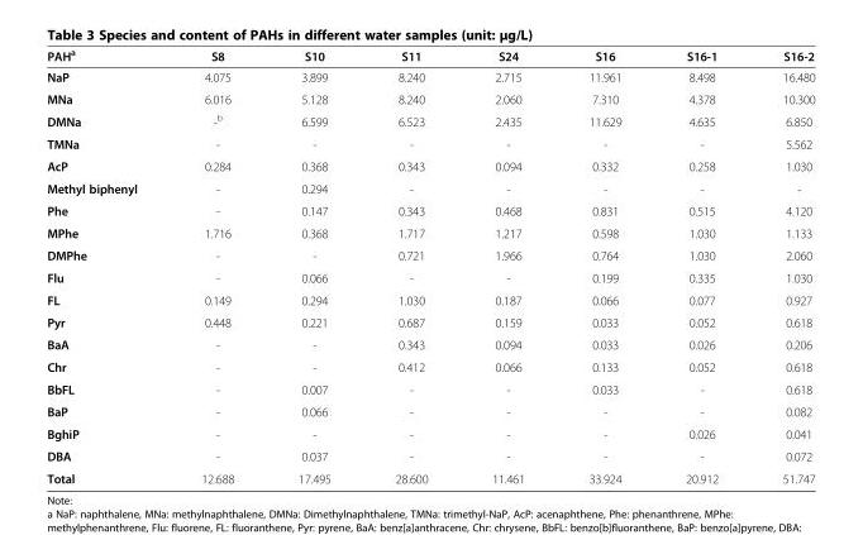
<table><thead><tr><td>PAH<sup>a</sup></td><td>S8</td><td>S10</td><td>S11</td><td>S24</td><td>S16</td><td>S16-1</td><td>S16-2</td></tr></thead><tbody><tr><td>NaP</td><td>4.075</td><td>3.899</td><td>8.240</td><td>2.715</td><td>11.961</td><td>8.498</td><td>16.480</td></tr><tr><td>MNa</td><td>6.016</td><td>5.128</td><td>8.240</td><td>2.060</td><td>7.310</td><td>4.378</td><td>10.300</td></tr><tr><td>DMNa</td><td>-<sup>b</sup></td><td>6.599</td><td>6.523</td><td>2.435</td><td>11.629</td><td>4.635</td><td>6.850</td></tr><tr><td>TMNa</td><td>-</td><td>-</td><td>-</td><td>-</td><td>-</td><td>-</td><td>5.562</td></tr><tr><td>AcP</td><td>0.284</td><td>0.368</td><td>0.343</td><td>0.094</td><td>0.332</td><td>0.258</td><td>1.030</td></tr><tr><td>Methyl biphenyl</td><td>-</td><td>0.294</td><td>-</td><td>-</td><td>-</td><td>-</td><td>-</td></tr><tr><td>Phe</td><td>-</td><td>0.147</td><td>0.343</td><td>0.468</td><td>0.831</td><td>0.515</td><td>4.120</td></tr><tr><td>MPhe</td><td>1.716</td><td>0.368</td><td>1.717</td><td>1.217</td><td>0.598</td><td>1.030</td><td>1.133</td></tr><tr><td>DMPhe</td><td>-</td><td>-</td><td>0.721</td><td>1.966</td><td>0.764</td><td>1.030</td><td>2.060</td></tr><tr><td>Flu</td><td>-</td><td>0.066</td><td>-</td><td>-</td><td>0.199</td><td>0.335</td><td>1.030</td></tr><tr><td>FL</td><td>0.149</td><td>0.294</td><td>1.030</td><td>0.187</td><td>0.066</td><td>0.077</td><td>0.927</td></tr><tr><td>Pyr</td><td>0.448</td><td>0.221</td><td>0.687</td><td>0.159</td><td>0.033</td><td>0.052</td><td>0.618</td></tr><tr><td>BaA</td><td>-</td><td>-</td><td>0.343</td><td>0.094</td><td>0.033</td><td>0.026</td><td>0.206</td></tr><tr><td>Chr</td><td>-</td><td>-</td><td>0.412</td><td>0.066</td><td>0.133</td><td>0.052</td><td>0.618</td></tr><tr><td>BbFL</td><td>-</td><td>0.007</td><td>-</td><td>-</td><td>0.033</td><td>-</td><td>0.618</td></tr><tr><td>BaP</td><td>-</td><td>0.066</td><td>-</td><td>-</td><td>-</td><td>-</td><td>0.082</td></tr><tr><td>BghiP</td><td>-</td><td>-</td><td>-</td><td>-</td><td>-</td><td>0.026</td><td>0.041</td></tr><tr><td>DBA</td><td>-</td><td>0.037</td><td>-</td><td>-</td><td>-</td><td>-</td><td>0.072</td></tr><tr><td>Total</td><td>12.688</td><td>17.495</td><td>28.600</td><td>11.461</td><td>33.924</td><td>20.912</td><td>51.747</td></tr></tbody></table>